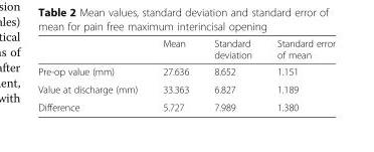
<table><thead><tr><td></td><td>Mean</td><td>Standard deviation</td><td>Standard error of mean</td></tr></thead><tbody><tr><td>Pre-op value (mm)</td><td>27.636</td><td>8.652</td><td>1.151</td></tr><tr><td>Value at discharge (mm)</td><td>33.363</td><td>6.827</td><td>1.189</td></tr><tr><td>Difference</td><td>5.727</td><td>7.989</td><td>1.380</td></tr></tbody></table>